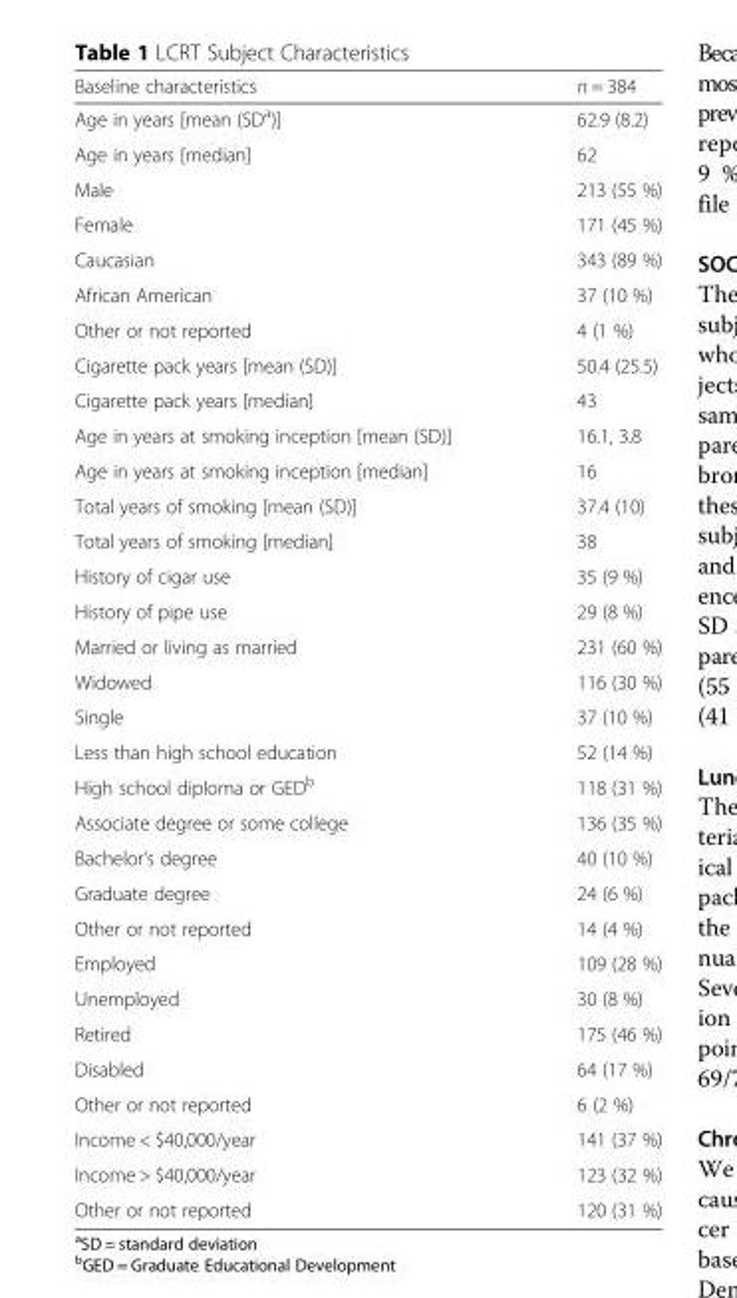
<table><thead><tr><td>Baseline characteristics</td><td>n = 384</td></tr></thead><tbody><tr><td>Age in years [mean (SD<sup>a</sup>)]</td><td>62.9 (8.2)</td></tr><tr><td>Age in years [median]</td><td>62</td></tr><tr><td>Male</td><td>213 (55 %)</td></tr><tr><td>Female</td><td>171 (45 %)</td></tr><tr><td>Caucasian</td><td>343 (89 %)</td></tr><tr><td>African American</td><td>37 (10 %)</td></tr><tr><td>Other or not reported</td><td>4 (1 %)</td></tr><tr><td>Cigarette pack years [mean (SD)]</td><td>50.4 (25.5)</td></tr><tr><td>Cigarette pack years [median]</td><td>43</td></tr><tr><td>Age in years at smoking inception [mean (SD)]</td><td>16.1, 3.8</td></tr><tr><td>Age in years at smoking inception [median]</td><td>16</td></tr><tr><td>Total years of smoking [mean (SD)]</td><td>37.4 (10)</td></tr><tr><td>Total years of smoking [median]</td><td>38</td></tr><tr><td>History of cigar use</td><td>35 (9 %)</td></tr><tr><td>History of pipe use</td><td>29 (8 %)</td></tr><tr><td>Married or living as married</td><td>231 (60 %)</td></tr><tr><td>Widowed</td><td>116 (30 %)</td></tr><tr><td>Single</td><td>37 (10 %)</td></tr><tr><td>Less than high school education</td><td>52 (14 %)</td></tr><tr><td>High school diploma or GED<sup>b</sup></td><td>118 (31 %)</td></tr><tr><td>Associate degree or some college</td><td>136 (35 %)</td></tr><tr><td>Bachelor&#x27;s degree</td><td>40 (10 %)</td></tr><tr><td>Graduate degree</td><td>24 (6 %)</td></tr><tr><td>Other or not reported</td><td>14 (4 %)</td></tr><tr><td>Employed</td><td>109 (28 %)</td></tr><tr><td>Unemployed</td><td>30 (8 %)</td></tr><tr><td>Retired</td><td>175 (46 %)</td></tr><tr><td>Disabled</td><td>64 (17 %)</td></tr><tr><td>Other or not reported</td><td>6 (2 %)</td></tr><tr><td>Income &lt; $40,000/year</td><td>141 (37 %)</td></tr><tr><td>Income &gt; $40,000/year</td><td>123 (32 %)</td></tr><tr><td>Other or not reported</td><td>120 (31 %)</td></tr></tbody></table>